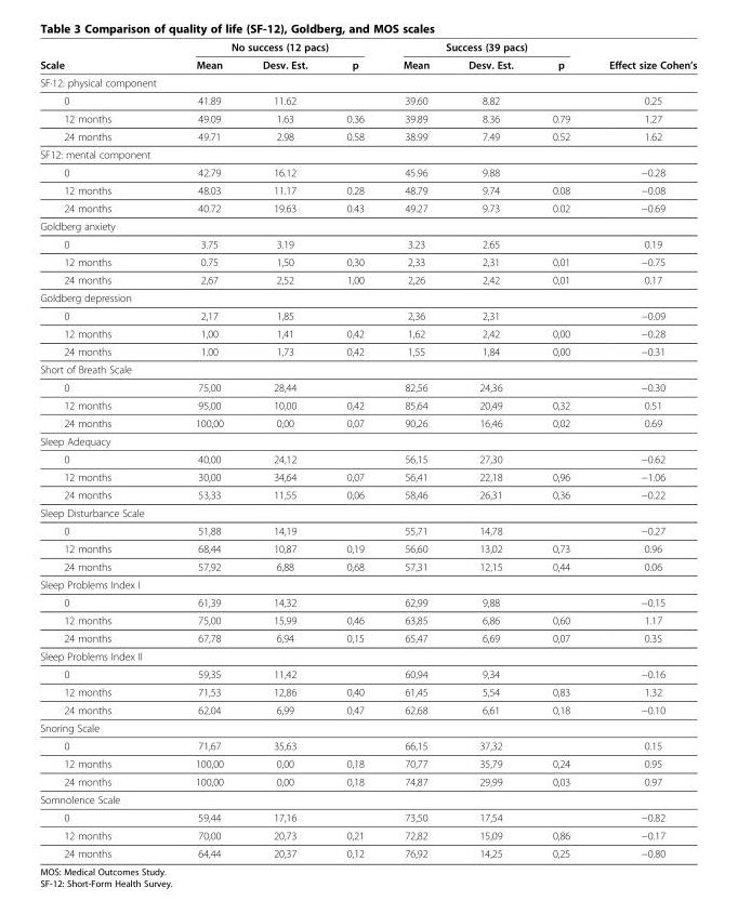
<table><thead><tr><td rowspan="2">Scale</td><td colspan="3">No success (12 pacs)</td><td colspan="3">Success (39 pacs)</td><td rowspan="2">Effect size Cohen’s</td></tr><tr><td>Mean</td><td>Desv. Est.</td><td>p</td><td>Mean</td><td>Desv. Est.</td><td>p</td></tr></thead><tbody><tr><td colspan="8">SF·12: physical component</td></tr><tr><td>0</td><td>41.89</td><td>11.62</td><td></td><td>39.60</td><td>8.82</td><td></td><td>0.25</td></tr><tr><td>12 months</td><td>49.09</td><td>1.63</td><td>0.36</td><td>39.89</td><td>8.36</td><td>0.79</td><td>1.27</td></tr><tr><td>24 months</td><td>49.71</td><td>2.98</td><td>0.58</td><td>38.99</td><td>7.49</td><td>0.52</td><td>1.62</td></tr><tr><td colspan="8">SF12: mental component</td></tr><tr><td>0</td><td>42.79</td><td>16.12</td><td></td><td>45.96</td><td>9.88</td><td></td><td>−0.28</td></tr><tr><td>12 months</td><td>48.03</td><td>11.17</td><td>0.28</td><td>48.79</td><td>9.74</td><td>0.08</td><td>−0.08</td></tr><tr><td>24 months</td><td>40.72</td><td>19.63</td><td>0.43</td><td>49.27</td><td>9.73</td><td>0.02</td><td>−0.69</td></tr><tr><td colspan="8">Goldberg anxiety</td></tr><tr><td>0</td><td>3.75</td><td>3.19</td><td></td><td>3.23</td><td>2.65</td><td></td><td>0.19</td></tr><tr><td>12 months</td><td>0.75</td><td>1,50</td><td>0,30</td><td>2,33</td><td>2,31</td><td>0,01</td><td>−0.75</td></tr><tr><td>24 months</td><td>2,67</td><td>2,52</td><td>1,00</td><td>2,26</td><td>2,42</td><td>0,01</td><td>0.17</td></tr><tr><td colspan="8">Goldberg depression</td></tr><tr><td>0</td><td>2,17</td><td>1,85</td><td></td><td>2,36</td><td>2,31</td><td></td><td>−0.09</td></tr><tr><td>12 months</td><td>1,00</td><td>1,41</td><td>0,42</td><td>1,62</td><td>2,42</td><td>0,00</td><td>−0.28</td></tr><tr><td>24 months</td><td>1.00</td><td>1,73</td><td>0,42</td><td>1,55</td><td>1,84</td><td>0,00</td><td>−0.31</td></tr><tr><td colspan="8">Short of Breath Scale</td></tr><tr><td>0</td><td>75,00</td><td>28,44</td><td></td><td>82,56</td><td>24,36</td><td></td><td>−0.30</td></tr><tr><td>12 months</td><td>95,00</td><td>10,00</td><td>0,42</td><td>85,64</td><td>20,49</td><td>0,32</td><td>0.51</td></tr><tr><td>24 months</td><td>100,00</td><td>0,00</td><td>0,07</td><td>90,26</td><td>16,46</td><td>0,02</td><td>0.69</td></tr><tr><td colspan="8">Sleep Adequacy</td></tr><tr><td>0</td><td>40,00</td><td>24,12</td><td></td><td>56,15</td><td>27,30</td><td></td><td>−0.62</td></tr><tr><td>12 months</td><td>30,00</td><td>34,64</td><td>0,07</td><td>56,41</td><td>22,18</td><td>0,96</td><td>−1.06</td></tr><tr><td>24 months</td><td>53,33</td><td>11,55</td><td>0,06</td><td>58,46</td><td>26,31</td><td>0,36</td><td>−0.22</td></tr><tr><td colspan="8">Sleep Disturbance Scale</td></tr><tr><td>0</td><td>51,88</td><td>14,19</td><td></td><td>55,71</td><td>14,78</td><td></td><td>−0.27</td></tr><tr><td>12 months</td><td>68,44</td><td>10,87</td><td>0,19</td><td>56,60</td><td>13,02</td><td>0,73</td><td>0.96</td></tr><tr><td>24 months</td><td>57,92</td><td>6,88</td><td>0,68</td><td>57,31</td><td>12,15</td><td>0,44</td><td>0.06</td></tr><tr><td colspan="8">Sleep Problems Index I</td></tr><tr><td>0</td><td>61,39</td><td>14,32</td><td></td><td>62,99</td><td>9,88</td><td></td><td>−0.15</td></tr><tr><td>12 months</td><td>75,00</td><td>15,99</td><td>0,46</td><td>63,85</td><td>6,86</td><td>0,60</td><td>1.17</td></tr><tr><td>24 months</td><td>67,78</td><td>6,94</td><td>0,15</td><td>65,47</td><td>6,69</td><td>0,07</td><td>0.35</td></tr><tr><td colspan="8">Sleep Problems Index II</td></tr><tr><td>0</td><td>59,35</td><td>11,42</td><td></td><td>60,94</td><td>9,34</td><td></td><td>−0.16</td></tr><tr><td>12 months</td><td>71,53</td><td>12,86</td><td>0,40</td><td>61,45</td><td>5,54</td><td>0,83</td><td>1.32</td></tr><tr><td>24 months</td><td>62,04</td><td>6,99</td><td>0,47</td><td>62,68</td><td>6,61</td><td>0,18</td><td>−0.10</td></tr><tr><td colspan="8">Snoring Scale</td></tr><tr><td>0</td><td>71,67</td><td>35,63</td><td></td><td>66,15</td><td>37,32</td><td></td><td>0.15</td></tr><tr><td>12 months</td><td>100,00</td><td>0,00</td><td>0,18</td><td>70,77</td><td>35,79</td><td>0,24</td><td>0.95</td></tr><tr><td>24 months</td><td>100,00</td><td>0,00</td><td>0,18</td><td>74,87</td><td>29,99</td><td>0,03</td><td>0.97</td></tr><tr><td colspan="8">Somnolence Scale</td></tr><tr><td>0</td><td>59,44</td><td>17,16</td><td></td><td>73,50</td><td>17,54</td><td></td><td>−0.82</td></tr><tr><td>12 months</td><td>70,00</td><td>20,73</td><td>0,21</td><td>72,82</td><td>15,09</td><td>0,86</td><td>−0.17</td></tr><tr><td>24 months</td><td>64,44</td><td>20,37</td><td>0,12</td><td>76,92</td><td>14,25</td><td>0,25</td><td>−0.80</td></tr></tbody></table>